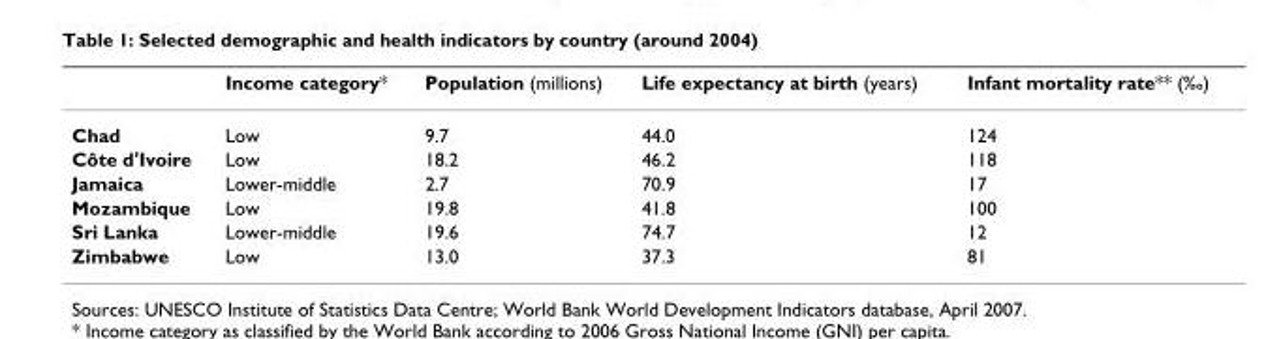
<table><thead><tr><td></td><td>Income category*</td><td>Population (millions)</td><td>Life expectancy at birth (years)</td><td>Infant mortality rate** (‰)</td></tr></thead><tbody><tr><td>Chad</td><td>Low</td><td>9.7</td><td>44.0</td><td>124</td></tr><tr><td>Côte d&#x27;Ivoire</td><td>Low</td><td>18.2</td><td>46.2</td><td>118</td></tr><tr><td>Jamaica</td><td>Lower-middle</td><td>2.7</td><td>70.9</td><td>17</td></tr><tr><td>Mozambique</td><td>Low</td><td>19.8</td><td>41.8</td><td>100</td></tr><tr><td>Sri Lanka</td><td>Lower-middle</td><td>19.6</td><td>74.7</td><td>12</td></tr><tr><td>Zimbabwe</td><td>Low</td><td>13.0</td><td>37.3</td><td>81</td></tr></tbody></table>